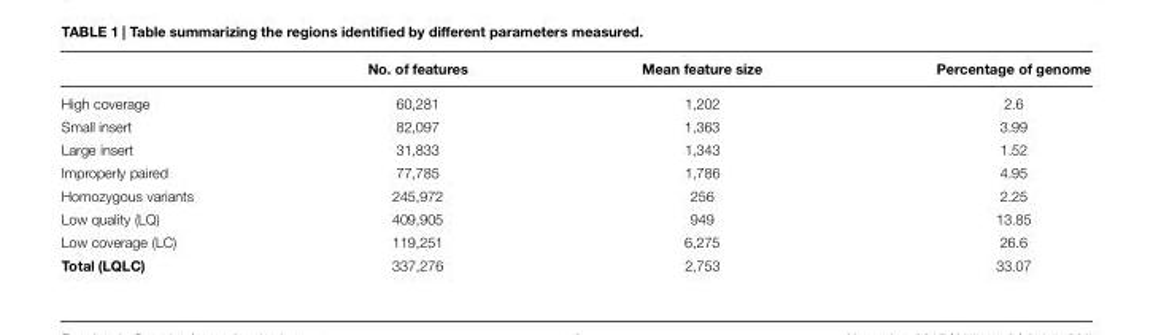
<table><thead><tr><td></td><td>No. of features</td><td>Mean feature size</td><td>Percentage of genome</td></tr></thead><tbody><tr><td>High coverage</td><td>60,281</td><td>1,202</td><td>2.6</td></tr><tr><td>Small insert</td><td>82,097</td><td>1,363</td><td>3.99</td></tr><tr><td>Large insert</td><td>31,833</td><td>1,343</td><td>1.52</td></tr><tr><td>Improperly paired</td><td>77,785</td><td>1,786</td><td>4.95</td></tr><tr><td>Homozygous variants</td><td>245,972</td><td>256</td><td>2.25</td></tr><tr><td>Low quality (LQ)</td><td>409,905</td><td>949</td><td>13.85</td></tr><tr><td>Low coverage (LC)</td><td>119,251</td><td>6,275</td><td>26.6</td></tr><tr><td>Total (LQLC)</td><td>337,276</td><td>2,753</td><td>33.07</td></tr></tbody></table>